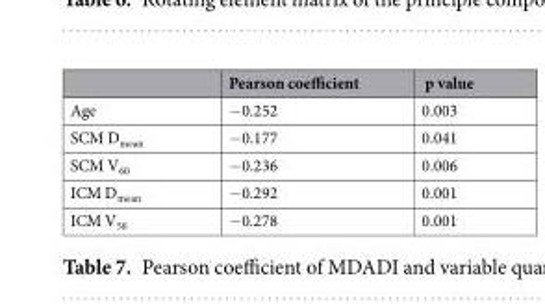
<table><thead><tr><td></td><td>Pearson coefficient</td><td>p value</td></tr></thead><tbody><tr><td>Age</td><td>−0.252</td><td>0.003</td></tr><tr><td>SCM D<sub>mean</sub></td><td>−0.177</td><td>0.041</td></tr><tr><td>SCM V<sub>60</sub></td><td>−0.236</td><td>0.006</td></tr><tr><td>ICM D<sub>mean</sub></td><td>−0.292</td><td>0.001</td></tr><tr><td>ICM V<sub>50</sub></td><td>−0.278</td><td>0.001</td></tr></tbody></table>